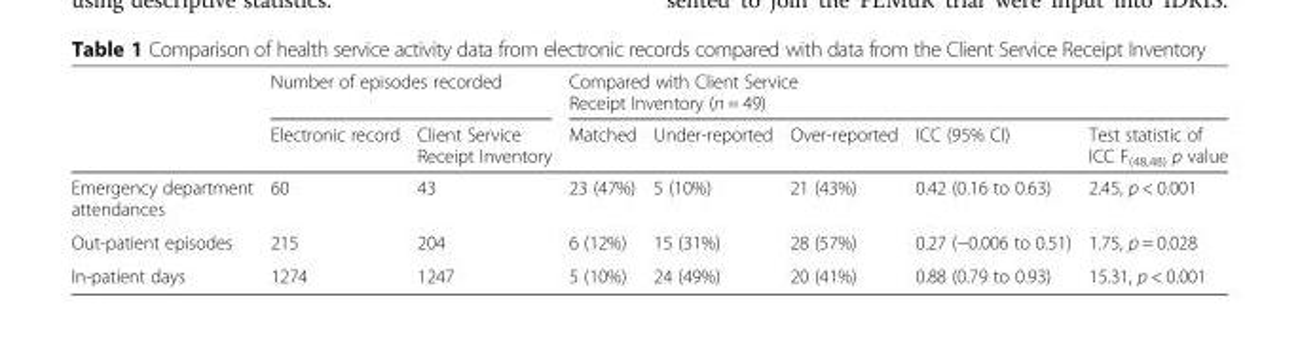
<table><thead><tr><td rowspan="2"></td><td colspan="2">Number of episodes recorded</td><td colspan="5">Compared with Client Service Receipt Inventory (n = 49)</td></tr><tr><td>Electronic record</td><td>Client Service Receipt Inventory</td><td>Matched</td><td>Under-reported</td><td>Over-reported</td><td>ICC (95% CI)</td><td>Test statistic of ICC F<sub>(48,48)</sub> p value</td></tr></thead><tbody><tr><td>Emergency department attendances</td><td>60</td><td>43</td><td>23 (47%)</td><td>5 (10%)</td><td>21 (43%)</td><td>0.42 (0.16 to 0.63)</td><td>2.45, p &lt; 0.001</td></tr><tr><td>Out-patient episodes</td><td>215</td><td>204</td><td>6 (12%)</td><td>15 (31%)</td><td>28 (57%)</td><td>0.27 (−0.006 to 0.51)</td><td>1.75, p = 0.028</td></tr><tr><td>In-patient days</td><td>1274</td><td>1247</td><td>5 (10%)</td><td>24 (49%)</td><td>20 (41%)</td><td>0.88 (0.79 to 0.93)</td><td>15.31, p &lt; 0.001</td></tr></tbody></table>